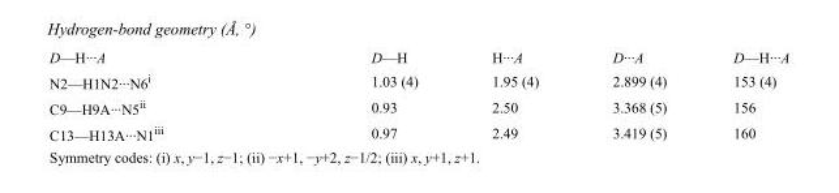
<table><tbody><tr><td>D—H···A</td><td>D—H</td><td>H···A</td><td>D···A</td><td>D—H···A</td></tr><tr><td>N2—H1N2···N6<sup>i</sup></td><td>1.03 (4)</td><td>1.95 (4)</td><td>2.899 (4)</td><td>153 (4)</td></tr><tr><td>C9—H9A···N5<sup>ii</sup></td><td>0.93</td><td>2.50</td><td>3.368 (5)</td><td>156</td></tr><tr><td>C13—H13A···N1<sup>iii</sup></td><td>0.97</td><td>2.49</td><td>3.419 (5)</td><td>160</td></tr></tbody></table>